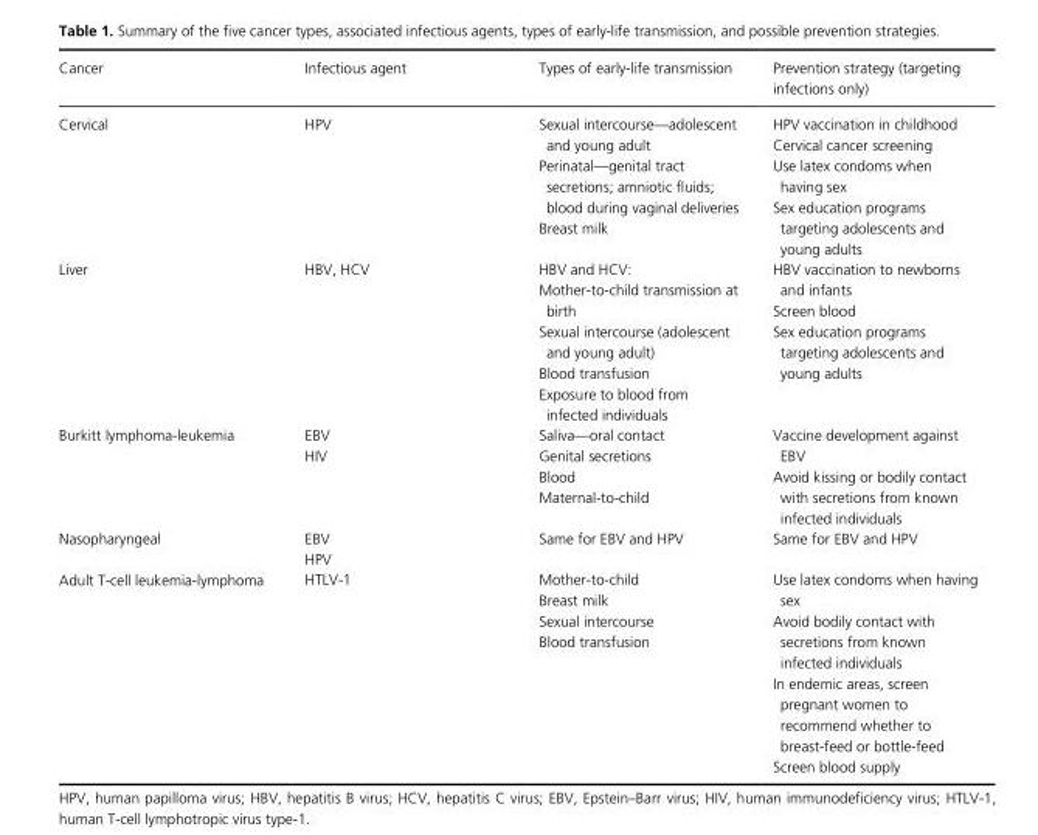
<table><thead><tr><td>Cancer</td><td>Infectious agent</td><td>Types of early- life transmission</td><td>Prevention strategy (targeting infections only)</td></tr></thead><tbody><tr><td>Cervical</td><td>HPV</td><td>Sexual intercourse—adolescent and young adult Perinatal—genital tract secretions; amniotic fluids; blood during vaginal deliveries Breast milk</td><td>HPV vaccination in childhood Cervical cancer screening Use latex condoms when having sex Sex education programs targeting adolescents and young adults</td></tr><tr><td>Liver</td><td>HBV, HCV</td><td>HBV and HCV: Mother- to- child transmission at birth Sexual intercourse (adolescent and young adult) Blood transfusion Exposure to blood from infected individuals</td><td>HBV vaccination to newborns and infants Screen blood Sex education programs targeting adolescents and young adults</td></tr><tr><td>Burkitt lymphoma- leukemia</td><td>EBV HIV</td><td>Saliva—oral contact Genital secretions Blood Maternal- to- child</td><td>Vaccine development against EBV Avoid kissing or bodily contact with secretions from known infected individuals</td></tr><tr><td>Nasopharyngeal</td><td>EBV HPV</td><td>Same for EBV and HPV</td><td>Same for EBV and HPV</td></tr><tr><td>Adult T- cell leukemia- lymphoma</td><td>HTLV- 1</td><td>Mother- to- child Breast milk Sexual intercourse Blood transfusion</td><td>Use latex condoms when having sex Avoid bodily contact with secretions from known infected individuals In endemic areas, screen pregnant women to recommend whether to breast- feed or bottle- feed Screen blood supply</td></tr></tbody></table>